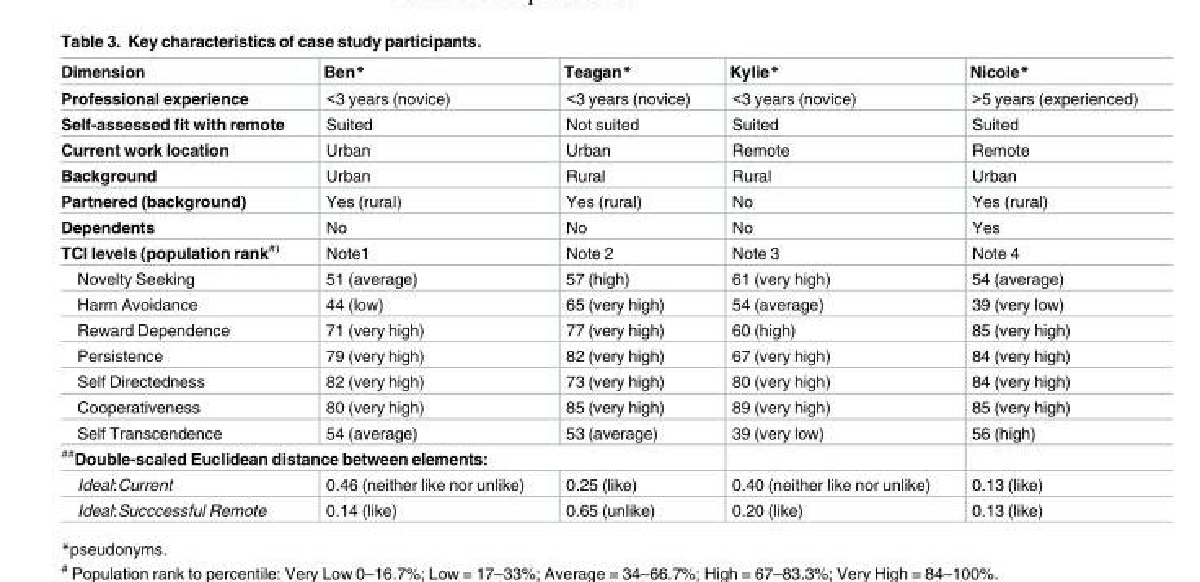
<table><thead><tr><td>Dimension</td><td>Ben*</td><td>Teagan*</td><td>Kylie*</td><td>Nicole*</td></tr></thead><tbody><tr><td>Professional experience</td><td>&lt;3 years (novice)</td><td>&lt;3 years (novice)</td><td>&lt;3 years (novice)</td><td>&gt;5 years (experienced)</td></tr><tr><td>Self-assessed fit with remote</td><td>Suited</td><td>Not suited</td><td>Suited</td><td>Suited</td></tr><tr><td>Current work location</td><td>Urban</td><td>Urban</td><td>Remote</td><td>Remote</td></tr><tr><td>Background</td><td>Urban</td><td>Rural</td><td>Rural</td><td>Urban</td></tr><tr><td>Partnered (background)</td><td>Yes (rural)</td><td>Yes (rural)</td><td>No</td><td>Yes (rural)</td></tr><tr><td>Dependents</td><td>No</td><td>No</td><td>No</td><td>Yes</td></tr><tr><td>TCI levels (population rank<sup>#)</sup></td><td>Note1</td><td>Note 2</td><td>Note 3</td><td>Note 4</td></tr><tr><td>Novelty Seeking</td><td>51 (average)</td><td>57 (high)</td><td>61 (very high)</td><td>54 (average)</td></tr><tr><td>Harm Avoidance</td><td>44 (low)</td><td>65 (very high)</td><td>54 (average)</td><td>39 (very low)</td></tr><tr><td>Reward Dependence</td><td>71 (very high)</td><td>77 (very high)</td><td>60 (high)</td><td>85 (very high)</td></tr><tr><td>Persistence</td><td>79 (very high)</td><td>82 (very high)</td><td>67 (very high)</td><td>84 (very high)</td></tr><tr><td>Self Directedness</td><td>82 (very high)</td><td>73 (very high)</td><td>80 (very high)</td><td>84 (very high)</td></tr><tr><td>Cooperativeness</td><td>80 (very high)</td><td>85 (very high)</td><td>89 (very high)</td><td>85 (very high)</td></tr><tr><td>Self Transcendence</td><td>54 (average)</td><td>53 (average)</td><td>39 (very low)</td><td>56 (high)</td></tr><tr><td colspan="5"><sup>##</sup>Double-scaled Euclidean distance between elements:</td></tr><tr><td>Ideal:Current</td><td>0.46 (neither like nor unlike)</td><td>0.25 (like)</td><td>0.40 (neither like nor unlike)</td><td>0.13 (like)</td></tr><tr><td>Ideal:Succcessful Remote</td><td>0.14 (like)</td><td>0.65 (unlike)</td><td>0.20 (like)</td><td>0.13 (like)</td></tr></tbody></table>